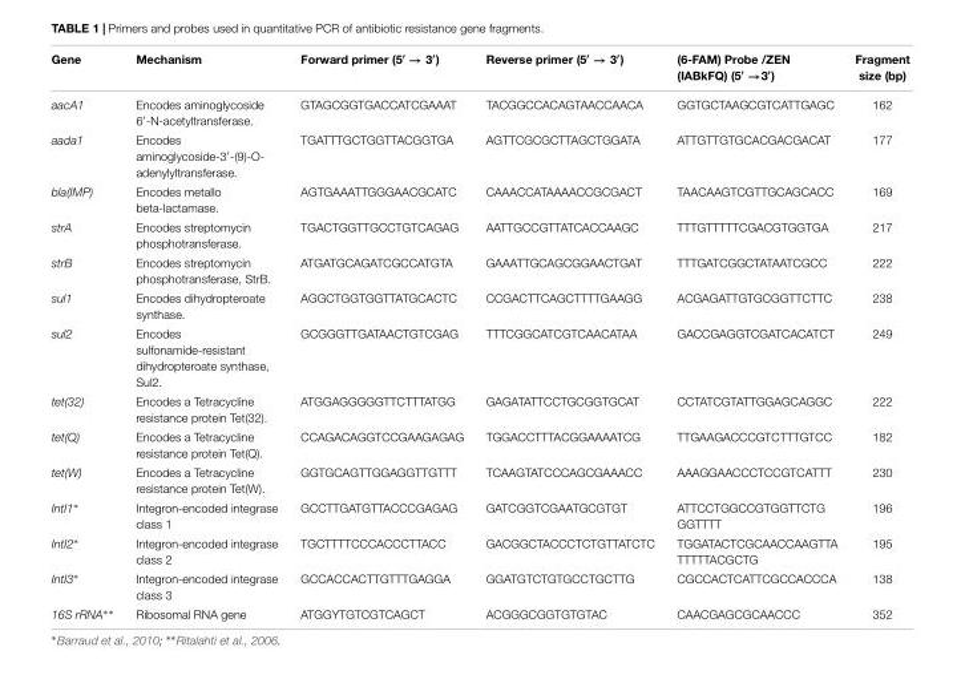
<table><thead><tr><td>Gene</td><td>Mechanism</td><td>Forward primer (5′ → 3′)</td><td>Reverse primer (5′ → 3′)</td><td>(6-FAM) Probe /ZEN (IABkFQ) (5′ →3′)</td><td>Fragment size (bp)</td></tr></thead><tbody><tr><td>aacA1</td><td>Encodes aminoglycoside 6′-N-acetyltransferase.</td><td>GTAGCGGTGACCATCGAAAT</td><td>TACGGCCACAGTAACCAACA</td><td>GGTGCTAAGCGTCATTGAGC</td><td>162</td></tr><tr><td>aada1</td><td>Encodes aminoglycoside-3′-(9)-O- adenylyltransferase.</td><td>TGATTTGCTGGTTACGGTGA</td><td>AGTTCGCGCTTAGCTGGATA</td><td>ATTGTTGTGCACGACGACAT</td><td>177</td></tr><tr><td>bla(IMP)</td><td>Encodes metallo beta-lactamase.</td><td>AGTGAAATTGGGAACGCATC</td><td>CAAACCATAAAACCGCGACT</td><td>TAACAAGTCGTTGCAGCACC</td><td>169</td></tr><tr><td>strA</td><td>Encodes streptomycin phosphotransferase.</td><td>TGACTGGTTGCCTGTCAGAG</td><td>AATTGCCGTTATCACCAAGC</td><td>TTTGTTTTTCGACGTGGTGA</td><td>217</td></tr><tr><td>strB</td><td>Encodes streptomycin phosphotransferase, StrB.</td><td>ATGATGCAGATCGCCATGTA</td><td>GAAATTGCAGCGGAACTGAT</td><td>TTTGATCGGCTATAATCGCC</td><td>222</td></tr><tr><td>sul1</td><td>Encodes dihydropteroate synthase.</td><td>AGGCTGGTGGTTATGCACTC</td><td>CCGACTTCAGCTTTTGAAGG</td><td>ACGAGATTGTGCGGTTCTTC</td><td>238</td></tr><tr><td>sul2</td><td>Encodes sulfonamide-resistant dihydropteroate synthase, Sul2.</td><td>GCGGGTTGATAACTGTCGAG</td><td>TTTCGGCATCGTCAACATAA</td><td>GACCGAGGTCGATCACATCT</td><td>249</td></tr><tr><td>tet(32)</td><td>Encodes a Tetracycline resistance protein Tet(32).</td><td>ATGGAGGGGGTTCTTTATGG</td><td>GAGATATTCCTGCGGTGCAT</td><td>CCTATCGTATTGGAGCAGGC</td><td>222</td></tr><tr><td>tet(Q)</td><td>Encodes a Tetracycline resistance protein Tet(Q).</td><td>CCAGACAGGTCCGAAGAGAG</td><td>TGGACCTTTACGGAAAATCG</td><td>TTGAAGACCCGTCTTTGTCC</td><td>182</td></tr><tr><td>tet(W)</td><td>Encodes a Tetracycline resistance protein Tet(W).</td><td>GGTGCAGTTGGAGGTTGTTT</td><td>TCAAGTATCCCAGCGAAACC</td><td>AAAGGAACCCTCCGTCATTT</td><td>230</td></tr><tr><td>IntI1∗</td><td>Integron-encoded integrase class 1</td><td>GCCTTGATGTTACCCGAGAG</td><td>GATCGGTCGAATGCGTGT</td><td>ATTCCTGGCCGTGGTTCTG GGTTTT</td><td>196</td></tr><tr><td>IntI2∗</td><td>Integron-encoded integrase class 2</td><td>TGCTTTTCCCACCCTTACC</td><td>GACGGCTACCCTCTGTTATCTC</td><td>TGGATACTCGCAACCAAGTTA TTTTTACGCTG</td><td>195</td></tr><tr><td>IntI3∗</td><td>Integron-encoded integrase class 3</td><td>GCCACCACTTGTTTGAGGA</td><td>GGATGTCTGTGCCTGCTTG</td><td>CGCCACTCATTCGCCACCCA</td><td>138</td></tr><tr><td>16S rRNA∗∗</td><td>Ribosomal RNA gene</td><td>ATGGYTGTCGTCAGCT</td><td>ACGGGCGGTGTGTAC</td><td>CAACGAGCGCAACCC</td><td>352</td></tr></tbody></table>